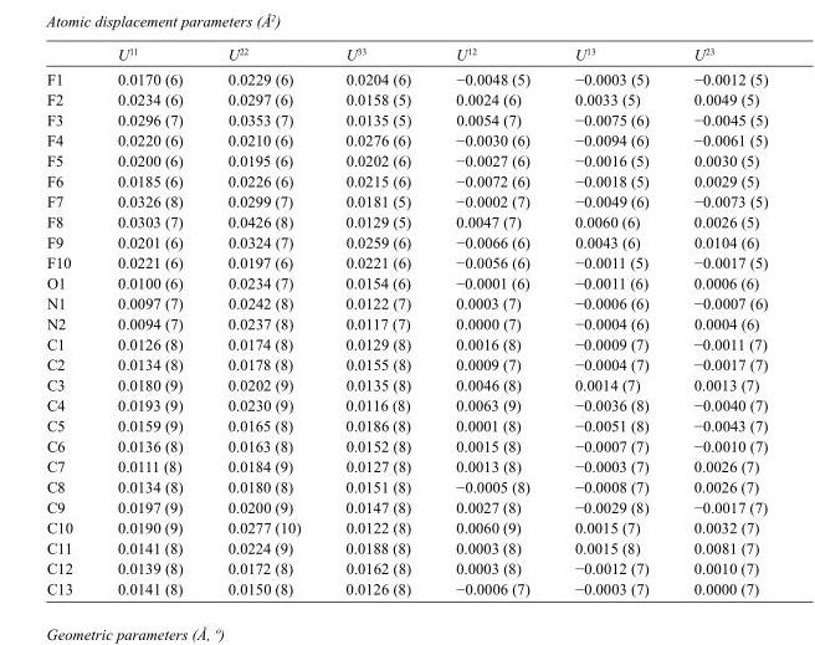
<table><thead><tr><td></td><td>U<sup>11</sup></td><td>U<sup>22</sup></td><td>U<sup>33</sup></td><td>U<sup>12</sup></td><td>U<sup>13</sup></td><td>U<sup>23</sup></td></tr></thead><tbody><tr><td>F1</td><td>0.0170 (6)</td><td>0.0229 (6)</td><td>0.0204 (6)</td><td>−0.0048 (5)</td><td>−0.0003 (5)</td><td>−0.0012 (5)</td></tr><tr><td>F2</td><td>0.0234 (6)</td><td>0.0297 (6)</td><td>0.0158 (5)</td><td>0.0024 (6)</td><td>0.0033 (5)</td><td>0.0049 (5)</td></tr><tr><td>F3</td><td>0.0296 (7)</td><td>0.0353 (7)</td><td>0.0135 (5)</td><td>0.0054 (7)</td><td>−0.0075 (6)</td><td>−0.0045 (5)</td></tr><tr><td>F4</td><td>0.0220 (6)</td><td>0.0210 (6)</td><td>0.0276 (6)</td><td>−0.0030 (6)</td><td>−0.0094 (6)</td><td>−0.0061 (5)</td></tr><tr><td>F5</td><td>0.0200 (6)</td><td>0.0195 (6)</td><td>0.0202 (6)</td><td>−0.0027 (6)</td><td>−0.0016 (5)</td><td>0.0030 (5)</td></tr><tr><td>F6</td><td>0.0185 (6)</td><td>0.0226 (6)</td><td>0.0215 (6)</td><td>−0.0072 (6)</td><td>−0.0018 (5)</td><td>0.0029 (5)</td></tr><tr><td>F7</td><td>0.0326 (8)</td><td>0.0299 (7)</td><td>0.0181 (5)</td><td>−0.0002 (7)</td><td>−0.0049 (6)</td><td>−0.0073 (5)</td></tr><tr><td>F8</td><td>0.0303 (7)</td><td>0.0426 (8)</td><td>0.0129 (5)</td><td>0.0047 (7)</td><td>0.0060 (6)</td><td>0.0026 (5)</td></tr><tr><td>F9</td><td>0.0201 (6)</td><td>0.0324 (7)</td><td>0.0259 (6)</td><td>−0.0066 (6)</td><td>0.0043 (6)</td><td>0.0104 (6)</td></tr><tr><td>F10</td><td>0.0221 (6)</td><td>0.0197 (6)</td><td>0.0221 (6)</td><td>−0.0056 (6)</td><td>−0.0011 (5)</td><td>−0.0017 (5)</td></tr><tr><td>O1</td><td>0.0100 (6)</td><td>0.0234 (7)</td><td>0.0154 (6)</td><td>−0.0001 (6)</td><td>−0.0011 (6)</td><td>0.0006 (6)</td></tr><tr><td>N1</td><td>0.0097 (7)</td><td>0.0242 (8)</td><td>0.0122 (7)</td><td>0.0003 (7)</td><td>−0.0006 (6)</td><td>−0.0007 (6)</td></tr><tr><td>N2</td><td>0.0094 (7)</td><td>0.0237 (8)</td><td>0.0117 (7)</td><td>0.0000 (7)</td><td>−0.0004 (6)</td><td>0.0004 (6)</td></tr><tr><td>C1</td><td>0.0126 (8)</td><td>0.0174 (8)</td><td>0.0129 (8)</td><td>0.0016 (8)</td><td>−0.0009 (7)</td><td>−0.0011 (7)</td></tr><tr><td>C2</td><td>0.0134 (8)</td><td>0.0178 (8)</td><td>0.0155 (8)</td><td>0.0009 (7)</td><td>−0.0004 (7)</td><td>−0.0017 (7)</td></tr><tr><td>C3</td><td>0.0180 (9)</td><td>0.0202 (9)</td><td>0.0135 (8)</td><td>0.0046 (8)</td><td>0.0014 (7)</td><td>0.0013 (7)</td></tr><tr><td>C4</td><td>0.0193 (9)</td><td>0.0230 (9)</td><td>0.0116 (8)</td><td>0.0063 (9)</td><td>−0.0036 (8)</td><td>−0.0040 (7)</td></tr><tr><td>C5</td><td>0.0159 (9)</td><td>0.0165 (8)</td><td>0.0186 (8)</td><td>0.0001 (8)</td><td>−0.0051 (8)</td><td>−0.0043 (7)</td></tr><tr><td>C6</td><td>0.0136 (8)</td><td>0.0163 (8)</td><td>0.0152 (8)</td><td>0.0015 (8)</td><td>−0.0007 (7)</td><td>−0.0010 (7)</td></tr><tr><td>C7</td><td>0.0111 (8)</td><td>0.0184 (9)</td><td>0.0127 (8)</td><td>0.0013 (8)</td><td>−0.0003 (7)</td><td>0.0026 (7)</td></tr><tr><td>C8</td><td>0.0134 (8)</td><td>0.0180 (8)</td><td>0.0151 (8)</td><td>−0.0005 (8)</td><td>−0.0008 (7)</td><td>0.0026 (7)</td></tr><tr><td>C9</td><td>0.0197 (9)</td><td>0.0200 (9)</td><td>0.0147 (8)</td><td>0.0027 (8)</td><td>−0.0029 (8)</td><td>−0.0017 (7)</td></tr><tr><td>C10</td><td>0.0190 (9)</td><td>0.0277 (10)</td><td>0.0122 (8)</td><td>0.0060 (9)</td><td>0.0015 (7)</td><td>0.0032 (7)</td></tr><tr><td>C11</td><td>0.0141 (8)</td><td>0.0224 (9)</td><td>0.0188 (8)</td><td>0.0003 (8)</td><td>0.0015 (8)</td><td>0.0081 (7)</td></tr><tr><td>C12</td><td>0.0139 (8)</td><td>0.0172 (8)</td><td>0.0162 (8)</td><td>0.0003 (8)</td><td>−0.0012 (7)</td><td>0.0010 (7)</td></tr><tr><td>C13</td><td>0.0141 (8)</td><td>0.0150 (8)</td><td>0.0126 (8)</td><td>−0.0006 (7)</td><td>−0.0003 (7)</td><td>0.0000 (7)</td></tr></tbody></table>